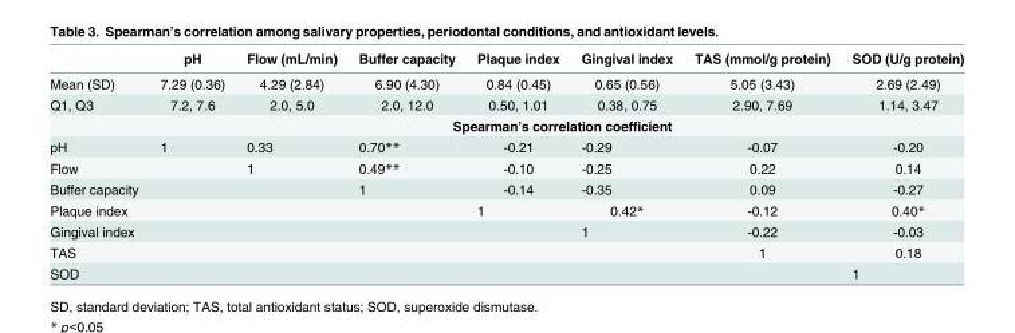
<table><thead><tr><td></td><td>pH</td><td>Flow (mL/min)</td><td>Buffer capacity</td><td>Plaque index</td><td>Gingival index</td><td>TAS (mmol/g protein)</td><td>SOD (U/g protein)</td></tr></thead><tbody><tr><td>Mean (SD)</td><td>7.29 (0.36)</td><td>4.29 (2.84)</td><td>6.90 (4.30)</td><td>0.84 (0.45)</td><td>0.65 (0.56)</td><td>5.05 (3.43)</td><td>2.69 (2.49)</td></tr><tr><td rowspan="2">Q1, Q3</td><td>7.2, 7.6</td><td>2.0, 5.0</td><td>2.0, 12.0</td><td>0.50, 1.01</td><td>0.38, 0.75</td><td>2.90, 7.69</td><td>1.14, 3.47</td></tr><tr><td colspan="7">Spearman’s correlation coefficient</td></tr><tr><td>pH</td><td>1</td><td>0.33</td><td>0.70**</td><td>-0.21</td><td>-0.29</td><td>-0.07</td><td>-0.20</td></tr><tr><td>Flow</td><td></td><td>1</td><td>0.49**</td><td>-0.10</td><td>-0.25</td><td>0.22</td><td>0.14</td></tr><tr><td>Buffer capacity</td><td></td><td></td><td>1</td><td>-0.14</td><td>-0.35</td><td>0.09</td><td>-0.27</td></tr><tr><td>Plaque index</td><td></td><td></td><td></td><td>1</td><td>0.42*</td><td>-0.12</td><td>0.40*</td></tr><tr><td>Gingival index</td><td></td><td></td><td></td><td></td><td>1</td><td>-0.22</td><td>-0.03</td></tr><tr><td>TAS</td><td></td><td></td><td></td><td></td><td></td><td>1</td><td>0.18</td></tr><tr><td>SOD</td><td></td><td></td><td></td><td></td><td></td><td></td><td>1</td></tr></tbody></table>